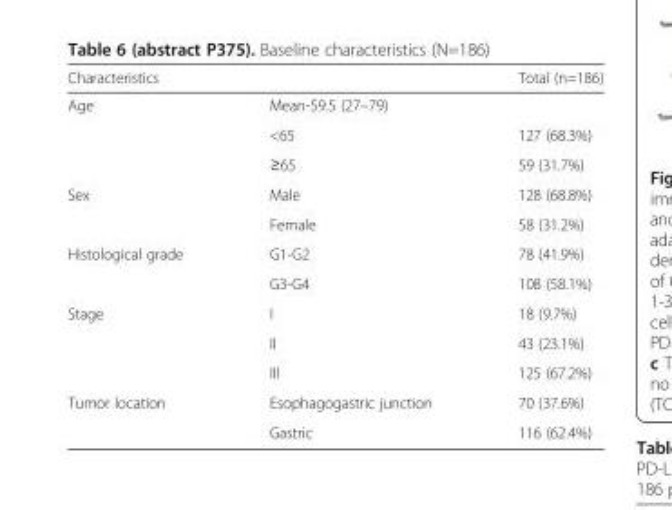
<table><thead><tr><td>Characteristics</td><td></td><td>Total (n=186)</td></tr></thead><tbody><tr><td rowspan="3">Age</td><td>Mean-59.5 (27–79)</td><td></td></tr><tr><td>&lt;65</td><td>127 (68.3%)</td></tr><tr><td>≥65</td><td>59 (31.7%)</td></tr><tr><td rowspan="2">Sex</td><td>Male</td><td>128 (68.8%)</td></tr><tr><td>Female</td><td>58 (31.2%)</td></tr><tr><td rowspan="2">Histological grade</td><td>G1-G2</td><td>78 (41.9%)</td></tr><tr><td>G3-G4</td><td>108 (58.1%)</td></tr><tr><td rowspan="3">Stage</td><td>I</td><td>18 (9.7%)</td></tr><tr><td>II</td><td>43 (23.1%)</td></tr><tr><td>III</td><td>125 (67.2%)</td></tr><tr><td rowspan="2">Tumor location</td><td>Esophagogastric junction</td><td>70 (37.6%)</td></tr><tr><td>Gastric</td><td>116 (62.4%)</td></tr></tbody></table>